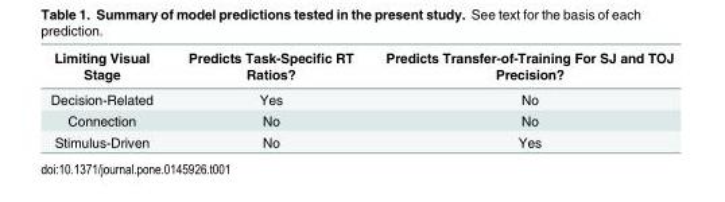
<table><thead><tr><td>Limiting Visual Stage</td><td>Predicts Task-Specific RT Ratios?</td><td>Predicts Transfer-of-Training For SJ and TOJ Precision?</td></tr></thead><tbody><tr><td>Decision-Related</td><td>Yes</td><td>No</td></tr><tr><td>Connection</td><td>No</td><td>No</td></tr><tr><td>Stimulus-Driven</td><td>No</td><td>Yes</td></tr></tbody></table>